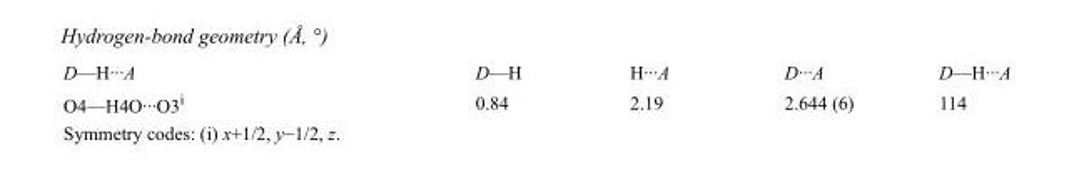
<table><tbody><tr><td>D—H···A</td><td>D—H</td><td>H···A</td><td>D···A</td><td>D—H···A</td></tr><tr><td>O4—H4O···O3<sup>i</sup></td><td>0.84</td><td>2.19</td><td>2.644 (6)</td><td>114</td></tr></tbody></table>